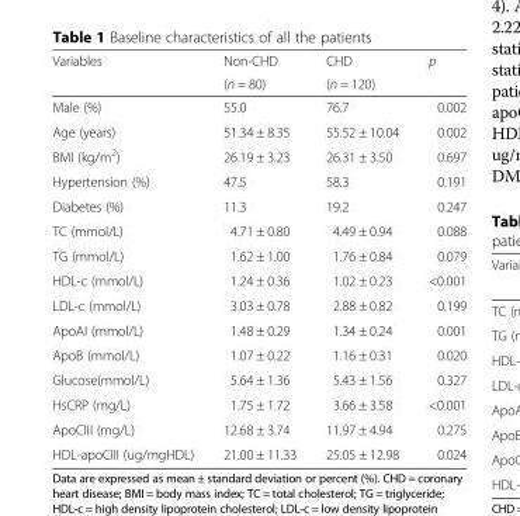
<table><thead><tr><td rowspan="2">Variables</td><td rowspan="2">Non-CHD (n = 80)</td><td rowspan="2">CHD (n = 120)</td><td rowspan="2">p</td></tr><tr></tr></thead><tbody><tr><td>Male (%)</td><td>55.0</td><td>76.7</td><td>0.002</td></tr><tr><td>Age (years)</td><td>51.34 ± 8.35</td><td>55.52 ± 10.04</td><td>0.002</td></tr><tr><td>BMI (kg/m<sup>2</sup>)</td><td>26.19 ± 3.23</td><td>26.31 ± 3.50</td><td>0.697</td></tr><tr><td>Hypertension (%)</td><td>47.5</td><td>58.3</td><td>0.191</td></tr><tr><td>Diabetes (%)</td><td>11.3</td><td>19.2</td><td>0.247</td></tr><tr><td>TC (mmol/L)</td><td>4.71 ± 0.80</td><td>4.49 ± 0.94</td><td>0.088</td></tr><tr><td>TG (mmol/L)</td><td>1.62 ± 1.00</td><td>1.76 ± 0.84</td><td>0.079</td></tr><tr><td>HDL-c (mmol/L)</td><td>1.24 ± 0.36</td><td>1.02 ± 0.23</td><td>&lt;0.001</td></tr><tr><td>LDL-c (mmol/L)</td><td>3.03 ± 0.78</td><td>2.88 ± 0.82</td><td>0.199</td></tr><tr><td>ApoAI (mmol/L)</td><td>1.48 ± 0.29</td><td>1.34 ± 0.24</td><td>0.001</td></tr><tr><td>ApoB (mmol/L)</td><td>1.07 ± 0.22</td><td>1.16 ± 0.31</td><td>0.020</td></tr><tr><td>Glucose(mmol/L)</td><td>5.64 ± 1.36</td><td>5.43 ± 1.56</td><td>0.327</td></tr><tr><td>HsCRP (mg/L)</td><td>1.75 ± 1.72</td><td>3.66 ± 3.58</td><td>&lt;0.001</td></tr><tr><td>ApoCIII (mg/L)</td><td>12.68 ± 3.74</td><td>11.97 ± 4.94</td><td>0.275</td></tr><tr><td>HDL-apoCIII (ug/mgHDL)</td><td>21.00 ± 11.33</td><td>25.05 ± 12.98</td><td>0.024</td></tr></tbody></table>